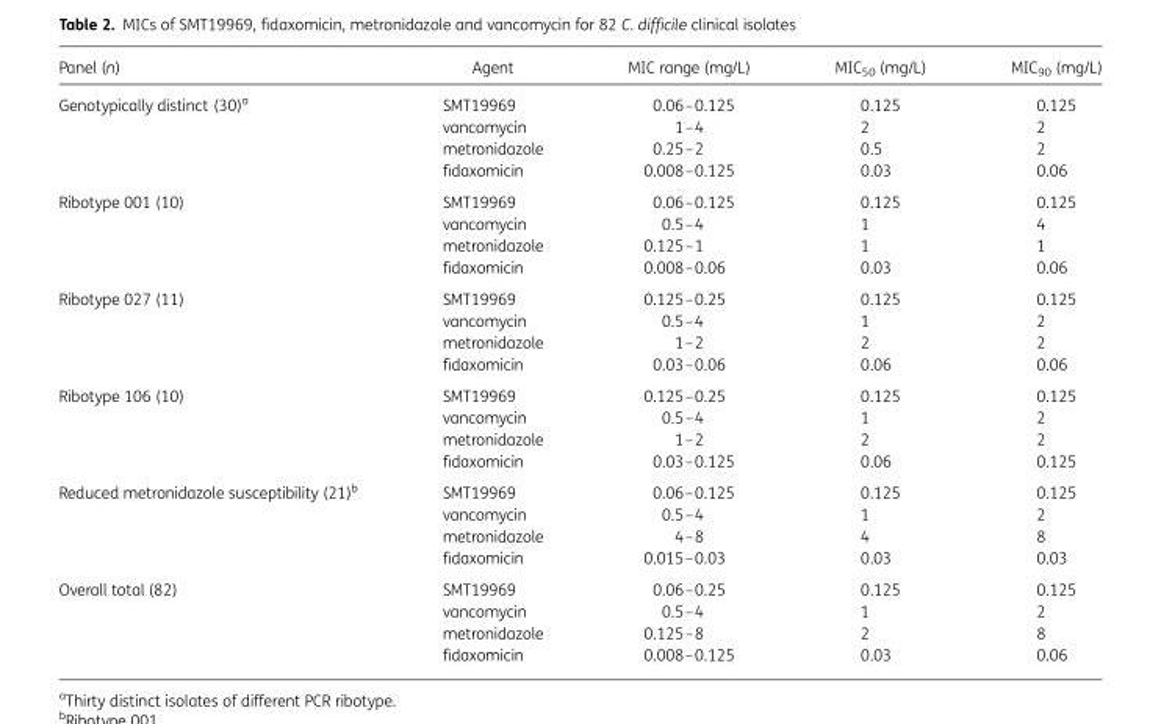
<table><thead><tr><td>Panel (n)</td><td>Agent</td><td>MIC range (mg/L)</td><td>MIC<sub>50</sub> (mg/L)</td><td>MIC<sub>90</sub> (mg/L)</td></tr></thead><tbody><tr><td rowspan="4">Genotypically distinct (30)<sup>a</sup></td><td>SMT19969</td><td>0.06–0.125</td><td>0.125</td><td>0.125</td></tr><tr><td>vancomycin</td><td>1–4</td><td>2</td><td>2</td></tr><tr><td>metronidazole</td><td>0.25–2</td><td>0.5</td><td>2</td></tr><tr><td>fidaxomicin</td><td>0.008–0.125</td><td>0.03</td><td>0.06</td></tr><tr><td rowspan="4">Ribotype 001 (10)</td><td>SMT19969</td><td>0.06–0.125</td><td>0.125</td><td>0.125</td></tr><tr><td>vancomycin</td><td>0.5–4</td><td>1</td><td>4</td></tr><tr><td>metronidazole</td><td>0.125–1</td><td>1</td><td>1</td></tr><tr><td>fidaxomicin</td><td>0.008–0.06</td><td>0.03</td><td>0.06</td></tr><tr><td rowspan="4">Ribotype 027 (11)</td><td>SMT19969</td><td>0.125–0.25</td><td>0.125</td><td>0.125</td></tr><tr><td>vancomycin</td><td>0.5–4</td><td>1</td><td>2</td></tr><tr><td>metronidazole</td><td>1–2</td><td>2</td><td>2</td></tr><tr><td>fidaxomicin</td><td>0.03–0.06</td><td>0.06</td><td>0.06</td></tr><tr><td rowspan="4">Ribotype 106 (10)</td><td>SMT19969</td><td>0.125–0.25</td><td>0.125</td><td>0.125</td></tr><tr><td>vancomycin</td><td>0.5–4</td><td>1</td><td>2</td></tr><tr><td>metronidazole</td><td>1–2</td><td>2</td><td>2</td></tr><tr><td>fidaxomicin</td><td>0.03–0.125</td><td>0.06</td><td>0.125</td></tr><tr><td rowspan="4">Reduced metronidazole susceptibility (21)<sup>b</sup></td><td>SMT19969</td><td>0.06–0.125</td><td>0.125</td><td>0.125</td></tr><tr><td>vancomycin</td><td>0.5–4</td><td>1</td><td>2</td></tr><tr><td>metronidazole</td><td>4–8</td><td>4</td><td>8</td></tr><tr><td>fidaxomicin</td><td>0.015–0.03</td><td>0.03</td><td>0.03</td></tr><tr><td rowspan="4">Overall total (82)</td><td>SMT19969</td><td>0.06–0.25</td><td>0.125</td><td>0.125</td></tr><tr><td>vancomycin</td><td>0.5–4</td><td>1</td><td>2</td></tr><tr><td>metronidazole</td><td>0.125–8</td><td>2</td><td>8</td></tr><tr><td>fidaxomicin</td><td>0.008–0.125</td><td>0.03</td><td>0.06</td></tr></tbody></table>